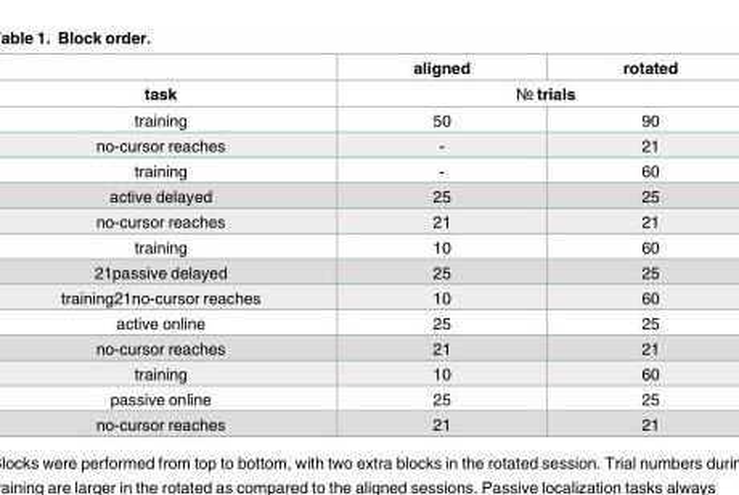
<table><thead><tr><td rowspan="2">task</td><td>aligned</td><td>rotated</td></tr><tr><td colspan="2">№ trials</td></tr></thead><tbody><tr><td>training</td><td>50</td><td>90</td></tr><tr><td>no-cursor reaches</td><td>-</td><td>21</td></tr><tr><td>training</td><td>-</td><td>60</td></tr><tr><td>active delayed</td><td>25</td><td>25</td></tr><tr><td>no-cursor reaches</td><td>21</td><td>21</td></tr><tr><td>training</td><td>10</td><td>60</td></tr><tr><td>21passive delayed</td><td>25</td><td>25</td></tr><tr><td>training21no-cursor reaches</td><td>10</td><td>60</td></tr><tr><td>active online</td><td>25</td><td>25</td></tr><tr><td>no-cursor reaches</td><td>21</td><td>21</td></tr><tr><td>training</td><td>10</td><td>60</td></tr><tr><td>passive online</td><td>25</td><td>25</td></tr><tr><td>no-cursor reaches</td><td>21</td><td>21</td></tr></tbody></table>